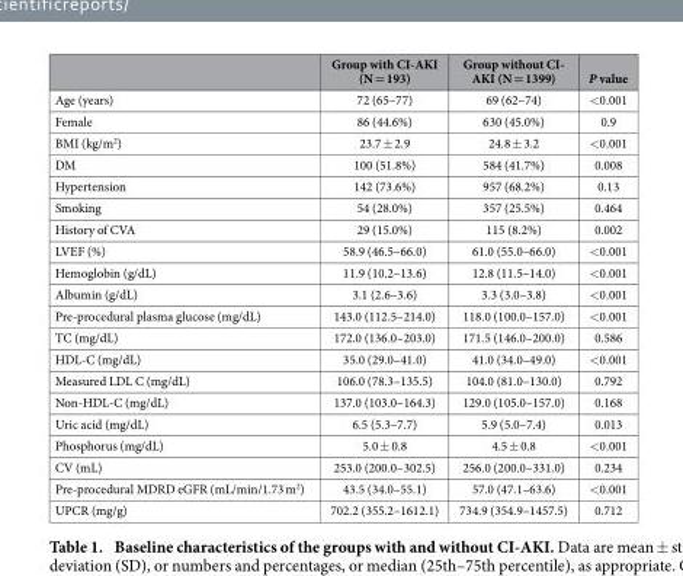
<table><thead><tr><td></td><td>Group with CI-AKI (N = 193)</td><td>Group without CI- AKI (N = 1399)</td><td>P value</td></tr></thead><tbody><tr><td>Age (years)</td><td>72 (65–77)</td><td>69 (62–74)</td><td>&lt; 0.001</td></tr><tr><td>Female</td><td>86 (44.6%)</td><td>630 (45.0%)</td><td>0.9</td></tr><tr><td>BMI (kg/m<sup>2</sup>)</td><td>23.7 ± 2.9</td><td>24.8 ± 3.2</td><td>&lt; 0.001</td></tr><tr><td>DM</td><td>100 (51.8%)</td><td>584 (41.7%)</td><td>0.008</td></tr><tr><td>Hypertension</td><td>142 (73.6%)</td><td>957 (68.2%)</td><td>0.13</td></tr><tr><td>Smoking</td><td>54 (28.0%)</td><td>357 (25.5%)</td><td>0.464</td></tr><tr><td>History of CVA</td><td>29 (15.0%)</td><td>115 (8.2%)</td><td>0.002</td></tr><tr><td>LVEF (%)</td><td>58.9 (46.5–66.0)</td><td>61.0 (55.0–66.0)</td><td>&lt; 0.001</td></tr><tr><td>Hemoglobin (g/dL)</td><td>11.9 (10.2–13.6)</td><td>12.8 (11.5–14.0)</td><td>&lt; 0.001</td></tr><tr><td>Albumin (g/dL)</td><td>3.1 (2.6–3.6)</td><td>3.3 (3.0–3.8)</td><td>&lt; 0.001</td></tr><tr><td>Pre-procedural plasma glucose (mg/dL)</td><td>143.0 (112.5–214.0)</td><td>118.0 (100.0–157.0)</td><td>&lt; 0.001</td></tr><tr><td>TC (mg/dL)</td><td>172.0 (136.0–203.0)</td><td>171.5 (146.0–200.0)</td><td>0.586</td></tr><tr><td>HDL-C (mg/dL)</td><td>35.0 (29.0–41.0)</td><td>41.0 (34.0–49.0)</td><td>&lt; 0.001</td></tr><tr><td>Measured LDL C (mg/dL)</td><td>106.0 (78.3–135.5)</td><td>104.0 (81.0–130.0)</td><td>0.792</td></tr><tr><td>Non-HDL-C (mg/dL)</td><td>137.0 (103.0–164.3)</td><td>129.0 (105.0–157.0)</td><td>0.168</td></tr><tr><td>Uric acid (mg/dL)</td><td>6.5 (5.3–7.7)</td><td>5.9 (5.0–7.4)</td><td>0.013</td></tr><tr><td>Phosphorus (mg/dL)</td><td>5.0 ± 0.8</td><td>4.5 ± 0.8</td><td>&lt; 0.001</td></tr><tr><td>CV (mL)</td><td>253.0 (200.0–302.5)</td><td>256.0 (200.0–331.0)</td><td>0.234</td></tr><tr><td>Pre-procedural MDRD eGFR (mL/min/1.73 m<sup>2</sup>)</td><td>43.5 (34.0–55.1)</td><td>57.0 (47.1–63.6)</td><td>&lt; 0.001</td></tr><tr><td>UPCR (mg/g)</td><td>702.2 (355.2–1612.1)</td><td>734.9 (354.9–1457.5)</td><td>0.712</td></tr></tbody></table>